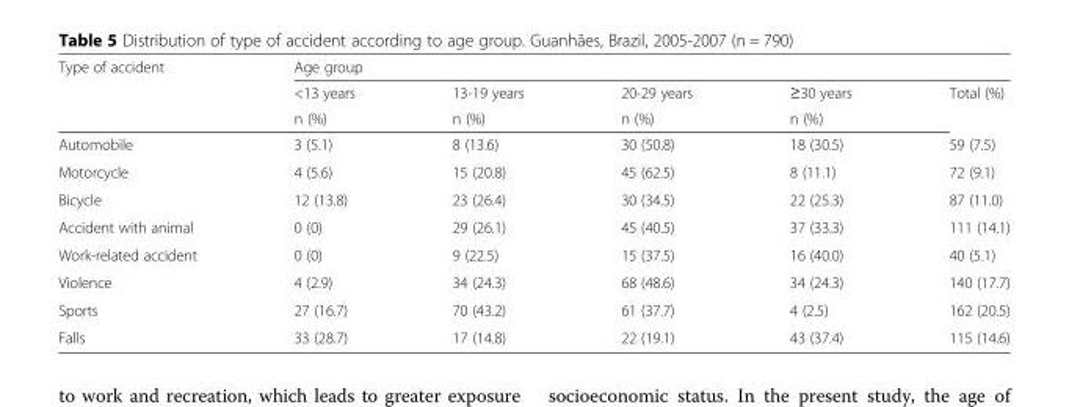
<table><thead><tr><td rowspan="3">Type of accident</td><td colspan="5">Age group</td></tr><tr><td rowspan="2">&lt;13 years n (%)</td><td rowspan="2">13-19 years n (%)</td><td rowspan="2">20-29 years n (%)</td><td rowspan="2">≥30 years n (%)</td><td rowspan="2">Total (%)</td></tr><tr></tr></thead><tbody><tr><td>Automobile</td><td>3 (5.1)</td><td>8 (13.6)</td><td>30 (50.8)</td><td>18 (30.5)</td><td>59 (7.5)</td></tr><tr><td>Motorcycle</td><td>4 (5.6)</td><td>15 (20.8)</td><td>45 (62.5)</td><td>8 (11.1)</td><td>72 (9.1)</td></tr><tr><td>Bicycle</td><td>12 (13.8)</td><td>23 (26.4)</td><td>30 (34.5)</td><td>22 (25.3)</td><td>87 (11.0)</td></tr><tr><td>Accident with animal</td><td>0 (0)</td><td>29 (26.1)</td><td>45 (40.5)</td><td>37 (33.3)</td><td>111 (14.1)</td></tr><tr><td>Work-related accident</td><td>0 (0)</td><td>9 (22.5)</td><td>15 (37.5)</td><td>16 (40.0)</td><td>40 (5.1)</td></tr><tr><td>Violence</td><td>4 (2.9)</td><td>34 (24.3)</td><td>68 (48.6)</td><td>34 (24.3)</td><td>140 (17.7)</td></tr><tr><td>Sports</td><td>27 (16.7)</td><td>70 (43.2)</td><td>61 (37.7)</td><td>4 (2.5)</td><td>162 (20.5)</td></tr><tr><td>Falls</td><td>33 (28.7)</td><td>17 (14.8)</td><td>22 (19.1)</td><td>43 (37.4)</td><td>115 (14.6)</td></tr></tbody></table>